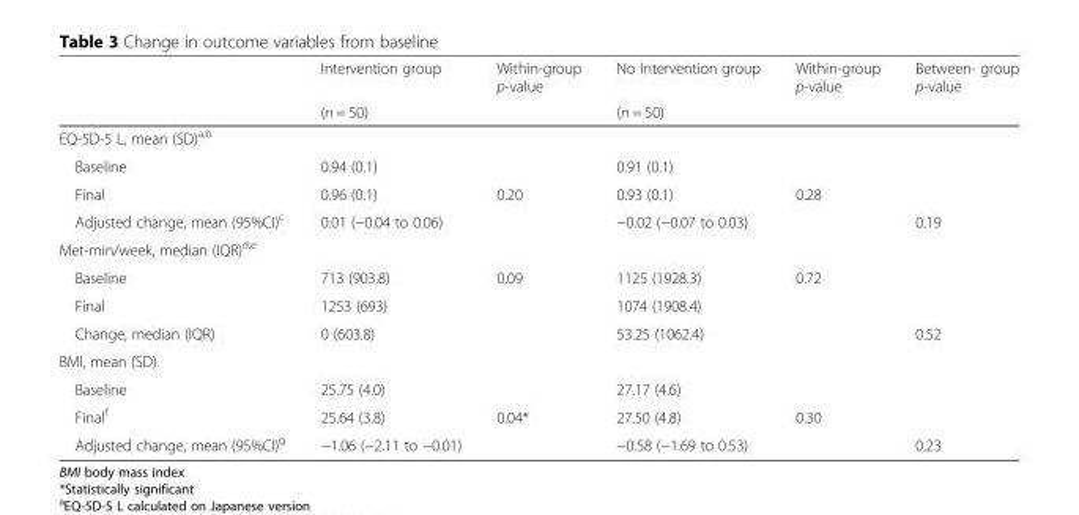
<table><thead><tr><td rowspan="2"></td><td rowspan="2">Intervention group (n = 50)</td><td rowspan="2">Within-group p-value</td><td rowspan="2">No Intervention group (n = 50)</td><td rowspan="2">Within-group p-value</td><td rowspan="2">Between- group p-value</td></tr><tr></tr></thead><tbody><tr><td colspan="6">EQ-5D-5 L, mean (SD)<sup>a,b</sup></td></tr><tr><td>Baseline</td><td>0.94 (0.1)</td><td></td><td>0.91 (0.1)</td><td></td><td></td></tr><tr><td>Final</td><td>0.96 (0.1)</td><td>0.20</td><td>0.93 (0.1)</td><td>0.28</td><td></td></tr><tr><td>Adjusted change, mean (95%CI)<sup>c</sup></td><td>0.01 (−0.04 to 0.06)</td><td></td><td>−0.02 (−0.07 to 0.03)</td><td></td><td>0.19</td></tr><tr><td colspan="6">Met-min/week, median (IQR)<sup>d,e</sup></td></tr><tr><td>Baseline</td><td>713 (903.8)</td><td rowspan="3">0.09</td><td>1125 (1928.3)</td><td rowspan="3">0.72</td><td></td></tr><tr><td>Final</td><td>1253 (693)</td><td>1074 (1908.4)</td><td></td></tr><tr><td>Change, median (IQR)</td><td>0 (603.8)</td><td>53.25 (1062.4)</td><td>0.52</td></tr><tr><td colspan="6">BMI, mean (SD)</td></tr><tr><td>Baseline</td><td>25.75 (4.0)</td><td></td><td>27.17 (4.6)</td><td></td><td></td></tr><tr><td>Final<sup>f</sup></td><td>25.64 (3.8)</td><td>0.04*</td><td>27.50 (4.8)</td><td>0.30</td><td></td></tr><tr><td>Adjusted change, mean (95%CI)<sup>g</sup></td><td>−1.06 (−2.11 to −0.01)</td><td></td><td>−0.58 (−1.69 to 0.53)</td><td></td><td>0.23</td></tr></tbody></table>